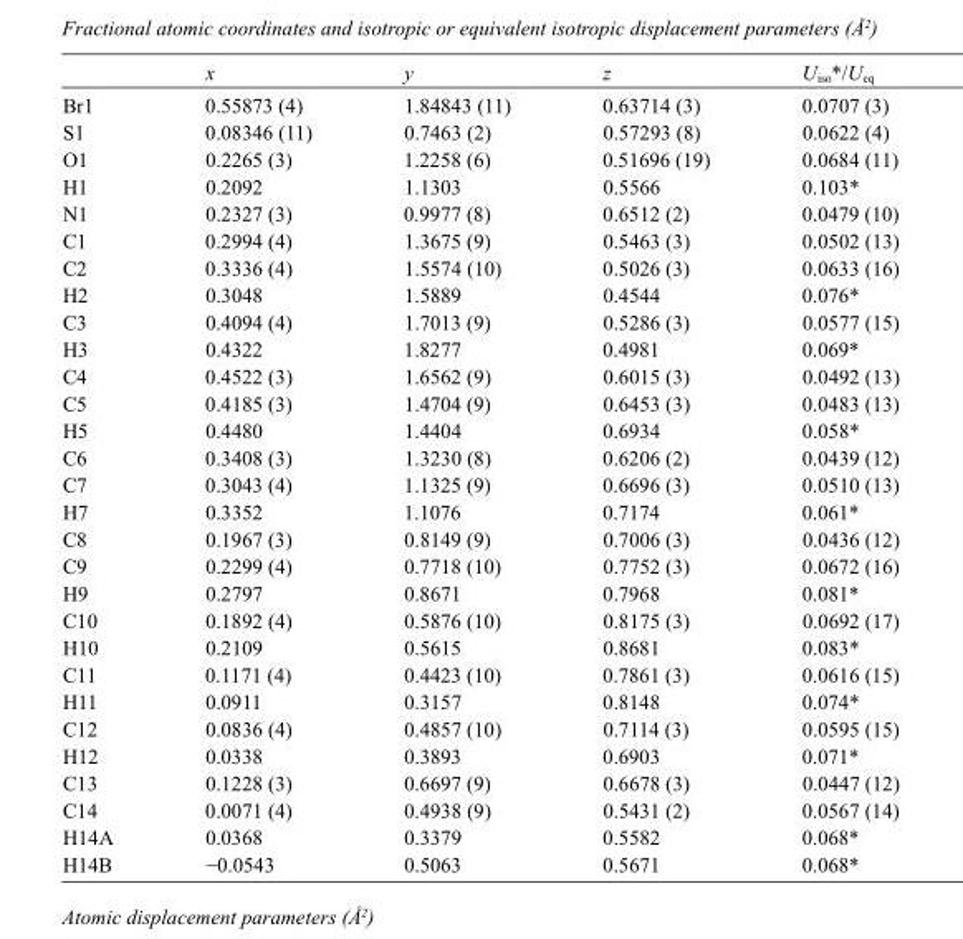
<table><thead><tr><td></td><td>x</td><td>y</td><td>z</td><td>U<sub>iso</sub>*/U<sub>eq</sub></td></tr></thead><tbody><tr><td>Br1</td><td>0.55873 (4)</td><td>1.84843 (11)</td><td>0.63714 (3)</td><td>0.0707 (3)</td></tr><tr><td>S1</td><td>0.08346 (11)</td><td>0.7463 (2)</td><td>0.57293 (8)</td><td>0.0622 (4)</td></tr><tr><td>O1</td><td>0.2265 (3)</td><td>1.2258 (6)</td><td>0.51696 (19)</td><td>0.0684 (11)</td></tr><tr><td>H1</td><td>0.2092</td><td>1.1303</td><td>0.5566</td><td>0.103*</td></tr><tr><td>N1</td><td>0.2327 (3)</td><td>0.9977 (8)</td><td>0.6512 (2)</td><td>0.0479 (10)</td></tr><tr><td>C1</td><td>0.2994 (4)</td><td>1.3675 (9)</td><td>0.5463 (3)</td><td>0.0502 (13)</td></tr><tr><td>C2</td><td>0.3336 (4)</td><td>1.5574 (10)</td><td>0.5026 (3)</td><td>0.0633 (16)</td></tr><tr><td>H2</td><td>0.3048</td><td>1.5889</td><td>0.4544</td><td>0.076*</td></tr><tr><td>C3</td><td>0.4094 (4)</td><td>1.7013 (9)</td><td>0.5286 (3)</td><td>0.0577 (15)</td></tr><tr><td>H3</td><td>0.4322</td><td>1.8277</td><td>0.4981</td><td>0.069*</td></tr><tr><td>C4</td><td>0.4522 (3)</td><td>1.6562 (9)</td><td>0.6015 (3)</td><td>0.0492 (13)</td></tr><tr><td>C5</td><td>0.4185 (3)</td><td>1.4704 (9)</td><td>0.6453 (3)</td><td>0.0483 (13)</td></tr><tr><td>H5</td><td>0.4480</td><td>1.4404</td><td>0.6934</td><td>0.058*</td></tr><tr><td>C6</td><td>0.3408 (3)</td><td>1.3230 (8)</td><td>0.6206 (2)</td><td>0.0439 (12)</td></tr><tr><td>C7</td><td>0.3043 (4)</td><td>1.1325 (9)</td><td>0.6696 (3)</td><td>0.0510 (13)</td></tr><tr><td>H7</td><td>0.3352</td><td>1.1076</td><td>0.7174</td><td>0.061*</td></tr><tr><td>C8</td><td>0.1967 (3)</td><td>0.8149 (9)</td><td>0.7006 (3)</td><td>0.0436 (12)</td></tr><tr><td>C9</td><td>0.2299 (4)</td><td>0.7718 (10)</td><td>0.7752 (3)</td><td>0.0672 (16)</td></tr><tr><td>H9</td><td>0.2797</td><td>0.8671</td><td>0.7968</td><td>0.081*</td></tr><tr><td>C10</td><td>0.1892 (4)</td><td>0.5876 (10)</td><td>0.8175 (3)</td><td>0.0692 (17)</td></tr><tr><td>H10</td><td>0.2109</td><td>0.5615</td><td>0.8681</td><td>0.083*</td></tr><tr><td>C11</td><td>0.1171 (4)</td><td>0.4423 (10)</td><td>0.7861 (3)</td><td>0.0616 (15)</td></tr><tr><td>H11</td><td>0.0911</td><td>0.3157</td><td>0.8148</td><td>0.074*</td></tr><tr><td>C12</td><td>0.0836 (4)</td><td>0.4857 (10)</td><td>0.7114 (3)</td><td>0.0595 (15)</td></tr><tr><td>H12</td><td>0.0338</td><td>0.3893</td><td>0.6903</td><td>0.071*</td></tr><tr><td>C13</td><td>0.1228 (3)</td><td>0.6697 (9)</td><td>0.6678 (3)</td><td>0.0447 (12)</td></tr><tr><td>C14</td><td>0.0071 (4)</td><td>0.4938 (9)</td><td>0.5431 (2)</td><td>0.0567 (14)</td></tr><tr><td>H14A</td><td>0.0368</td><td>0.3379</td><td>0.5582</td><td>0.068*</td></tr><tr><td>H14B</td><td>−0.0543</td><td>0.5063</td><td>0.5671</td><td>0.068*</td></tr></tbody></table>